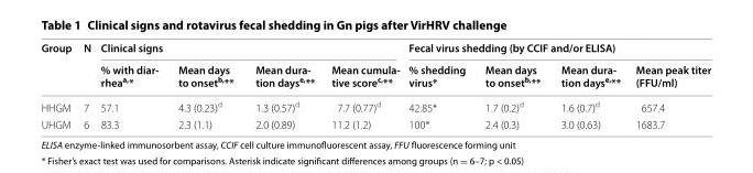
<table><thead><tr><td rowspan="2">Group</td><td rowspan="2">N</td><td colspan="4">Clinical signs</td><td colspan="4">Fecal virus shedding (by CCIF and/or ELISA)</td></tr><tr><td>% with diar‑ rheaa,*</td><td>Mean days to onset<sup>b,</sup>**</td><td>Mean dura‑ tion dayse,**</td><td>Mean cumula‑ tive scorec,**</td><td>% shedding virus*</td><td>Mean days to onset<sup>b,</sup>**</td><td>Mean dura‑ tion dayse,**</td><td>Mean peak titer (FFU/ml)</td></tr></thead><tbody><tr><td>HHGM</td><td>7</td><td>57.1</td><td>4.3 (0.23)<sup>d</sup></td><td>1.3 (0.57)<sup>d</sup></td><td>7.7 (0.77)<sup>d</sup></td><td>42.85*</td><td>1.7 (0.2)<sup>d</sup></td><td>1.6 (0.7)<sup>d</sup></td><td>657.4</td></tr><tr><td>UHGM</td><td>6</td><td>83.3</td><td>2.3 (1.1)</td><td>2.0 (0.89)</td><td>11.2 (1.2)</td><td>100*</td><td>2.4 (0.3)</td><td>3.0 (0.63)</td><td>1683.7</td></tr></tbody></table>